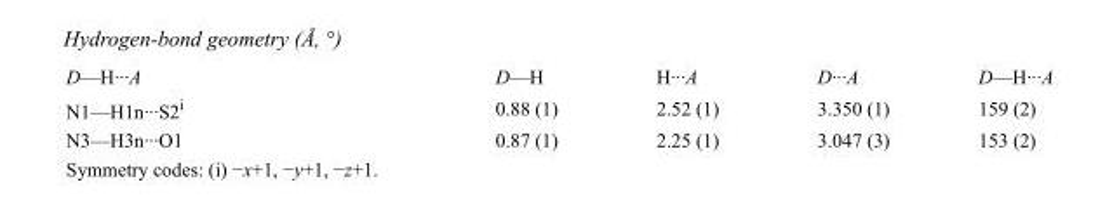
<table><tbody><tr><td>D—H···A</td><td>D—H</td><td>H···A</td><td>D···A</td><td>D—H···A</td></tr><tr><td>N1—H1n···S2<sup>i</sup></td><td>0.88 (1)</td><td>2.52 (1)</td><td>3.350 (1)</td><td>159 (2)</td></tr><tr><td>N3—H3n···O1</td><td>0.87 (1)</td><td>2.25 (1)</td><td>3.047 (3)</td><td>153 (2)</td></tr></tbody></table>